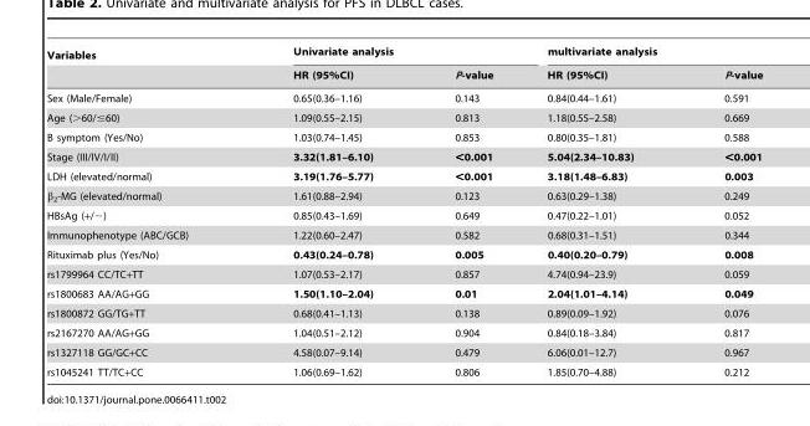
<table><thead><tr><td rowspan="2">Variables</td><td colspan="2">Univariate analysis</td><td colspan="2">multivariate analysis</td></tr><tr><td>HR (95%CI)</td><td>P-value</td><td>HR (95%CI)</td><td>P-value</td></tr></thead><tbody><tr><td>Sex (Male/Female)</td><td>0.65(0.36–1.16)</td><td>0.143</td><td>0.84(0.44–1.61)</td><td>0.591</td></tr><tr><td>Age (&gt;60/≤60)</td><td>1.09(0.55–2.15)</td><td>0.813</td><td>1.18(0.55–2.58)</td><td>0.669</td></tr><tr><td>B symptom (Yes/No)</td><td>1.03(0.74–1.45)</td><td>0.853</td><td>0.80(0.35–1.81)</td><td>0.588</td></tr><tr><td>Stage (III/IV/I/II)</td><td>3.32(1.81–6.10)</td><td>&lt;0.001</td><td>5.04(2.34–10.83)</td><td>&lt;0.001</td></tr><tr><td>LDH (elevated/normal)</td><td>3.19(1.76–5.77)</td><td>&lt;0.001</td><td>3.18(1.48–6.83)</td><td>0.003</td></tr><tr><td>β<sub>2</sub>-MG (elevated/normal)</td><td>1.61(0.88–2.94)</td><td>0.123</td><td>0.63(0.29–1.38)</td><td>0.249</td></tr><tr><td>HBsAg (+/−)</td><td>0.85(0.43–1.69)</td><td>0.649</td><td>0.47(0.22–1.01)</td><td>0.052</td></tr><tr><td>Immunophenotype (ABC/GCB)</td><td>1.22(0.60–2.47)</td><td>0.582</td><td>0.68(0.31–1.51)</td><td>0.344</td></tr><tr><td>Rituximab plus (Yes/No)</td><td>0.43(0.24–0.78)</td><td>0.005</td><td>0.40(0.20–0.79)</td><td>0.008</td></tr><tr><td>rs1799964 CC/TC+TT</td><td>1.07(0.53–2.17)</td><td>0.857</td><td>4.74(0.94–23.9)</td><td>0.059</td></tr><tr><td>rs1800683 AA/AG+GG</td><td>1.50(1.10–2.04)</td><td>0.01</td><td>2.04(1.01–4.14)</td><td>0.049</td></tr><tr><td>rs1800872 GG/TG+TT</td><td>0.68(0.41–1.13)</td><td>0.138</td><td>0.89(0.09–1.92)</td><td>0.076</td></tr><tr><td>rs2167270 AA/AG+GG</td><td>1.04(0.51–2.12)</td><td>0.904</td><td>0.84(0.18–3.84)</td><td>0.817</td></tr><tr><td>rs1327118 GG/GC+CC</td><td>4.58(0.07–9.14)</td><td>0.479</td><td>6.06(0.01–12.7)</td><td>0.967</td></tr><tr><td>rs1045241 TT/TC+CC</td><td>1.06(0.69–1.62)</td><td>0.806</td><td>1.85(0.70–4.88)</td><td>0.212</td></tr></tbody></table>